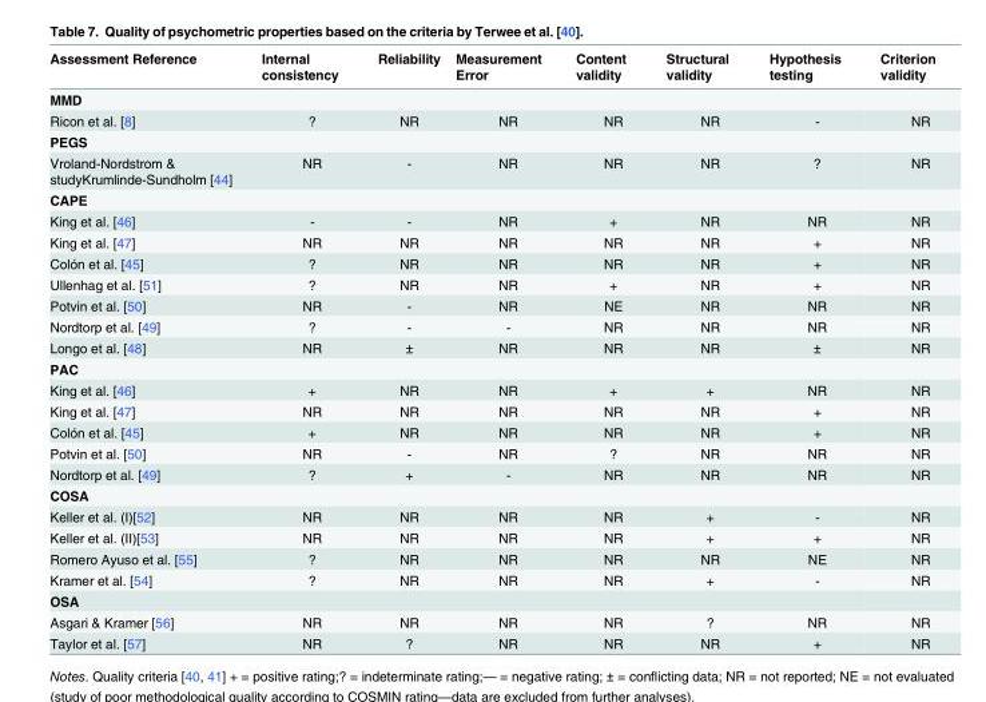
<table><thead><tr><td>Assessment Reference</td><td>Internal consistency</td><td>Reliability</td><td>Measurement Error</td><td>Content validity</td><td>Structural validity</td><td>Hypothesis testing</td><td>Criterion validity</td></tr></thead><tbody><tr><td colspan="8">MMD</td></tr><tr><td>Ricon et al. [8]</td><td>?</td><td>NR</td><td>NR</td><td>NR</td><td>NR</td><td>-</td><td>NR</td></tr><tr><td colspan="8">PEGS</td></tr><tr><td>Vroland-Nordstrom &amp; studyKrumlinde-Sundholm [44]</td><td>NR</td><td>-</td><td>NR</td><td>NR</td><td>NR</td><td>?</td><td>NR</td></tr><tr><td colspan="8">CAPE</td></tr><tr><td>King et al. [46]</td><td>-</td><td>-</td><td>NR</td><td>+</td><td>NR</td><td>NR</td><td>NR</td></tr><tr><td>King et al. [47]</td><td>NR</td><td>NR</td><td>NR</td><td>NR</td><td>NR</td><td>+</td><td>NR</td></tr><tr><td>Colón et al. [45]</td><td>?</td><td>NR</td><td>NR</td><td>NR</td><td>NR</td><td>+</td><td>NR</td></tr><tr><td>Ullenhag et al. [51]</td><td>?</td><td>NR</td><td>NR</td><td>+</td><td>NR</td><td>+</td><td>NR</td></tr><tr><td>Potvin et al. [50]</td><td>NR</td><td>-</td><td>NR</td><td>NE</td><td>NR</td><td>NR</td><td>NR</td></tr><tr><td>Nordtorp et al. [49]</td><td>?</td><td>-</td><td>-</td><td>NR</td><td>NR</td><td>NR</td><td>NR</td></tr><tr><td>Longo et al. [48]</td><td>NR</td><td>±</td><td>NR</td><td>NR</td><td>NR</td><td>±</td><td>NR</td></tr><tr><td colspan="8">PAC</td></tr><tr><td>King et al. [46]</td><td>+</td><td>NR</td><td>NR</td><td>+</td><td>+</td><td>NR</td><td>NR</td></tr><tr><td>King et al. [47]</td><td>NR</td><td>NR</td><td>NR</td><td>NR</td><td>NR</td><td>+</td><td>NR</td></tr><tr><td>Colón et al. [45]</td><td>+</td><td>NR</td><td>NR</td><td>NR</td><td>NR</td><td>+</td><td>NR</td></tr><tr><td>Potvin et al. [50]</td><td>NR</td><td>-</td><td>NR</td><td>?</td><td>NR</td><td>NR</td><td>NR</td></tr><tr><td>Nordtorp et al. [49]</td><td>?</td><td>+</td><td>-</td><td>NR</td><td>NR</td><td>NR</td><td>NR</td></tr><tr><td colspan="8">COSA</td></tr><tr><td>Keller et al. (I)[52]</td><td>NR</td><td>NR</td><td>NR</td><td>NR</td><td>+</td><td>-</td><td>NR</td></tr><tr><td>Keller et al. (II)[53]</td><td>NR</td><td>NR</td><td>NR</td><td>NR</td><td>+</td><td>+</td><td>NR</td></tr><tr><td>Romero Ayuso et al. [55]</td><td>?</td><td>NR</td><td>NR</td><td>NR</td><td>NR</td><td>NE</td><td>NR</td></tr><tr><td>Kramer et al. [54]</td><td>?</td><td>NR</td><td>NR</td><td>NR</td><td>+</td><td>-</td><td>NR</td></tr><tr><td colspan="8">OSA</td></tr><tr><td>Asgari &amp; Kramer [56]</td><td>NR</td><td>NR</td><td>NR</td><td>NR</td><td>?</td><td>NR</td><td>NR</td></tr><tr><td>Taylor et al. [57]</td><td>NR</td><td>?</td><td>NR</td><td>NR</td><td>NR</td><td>+</td><td>NR</td></tr></tbody></table>